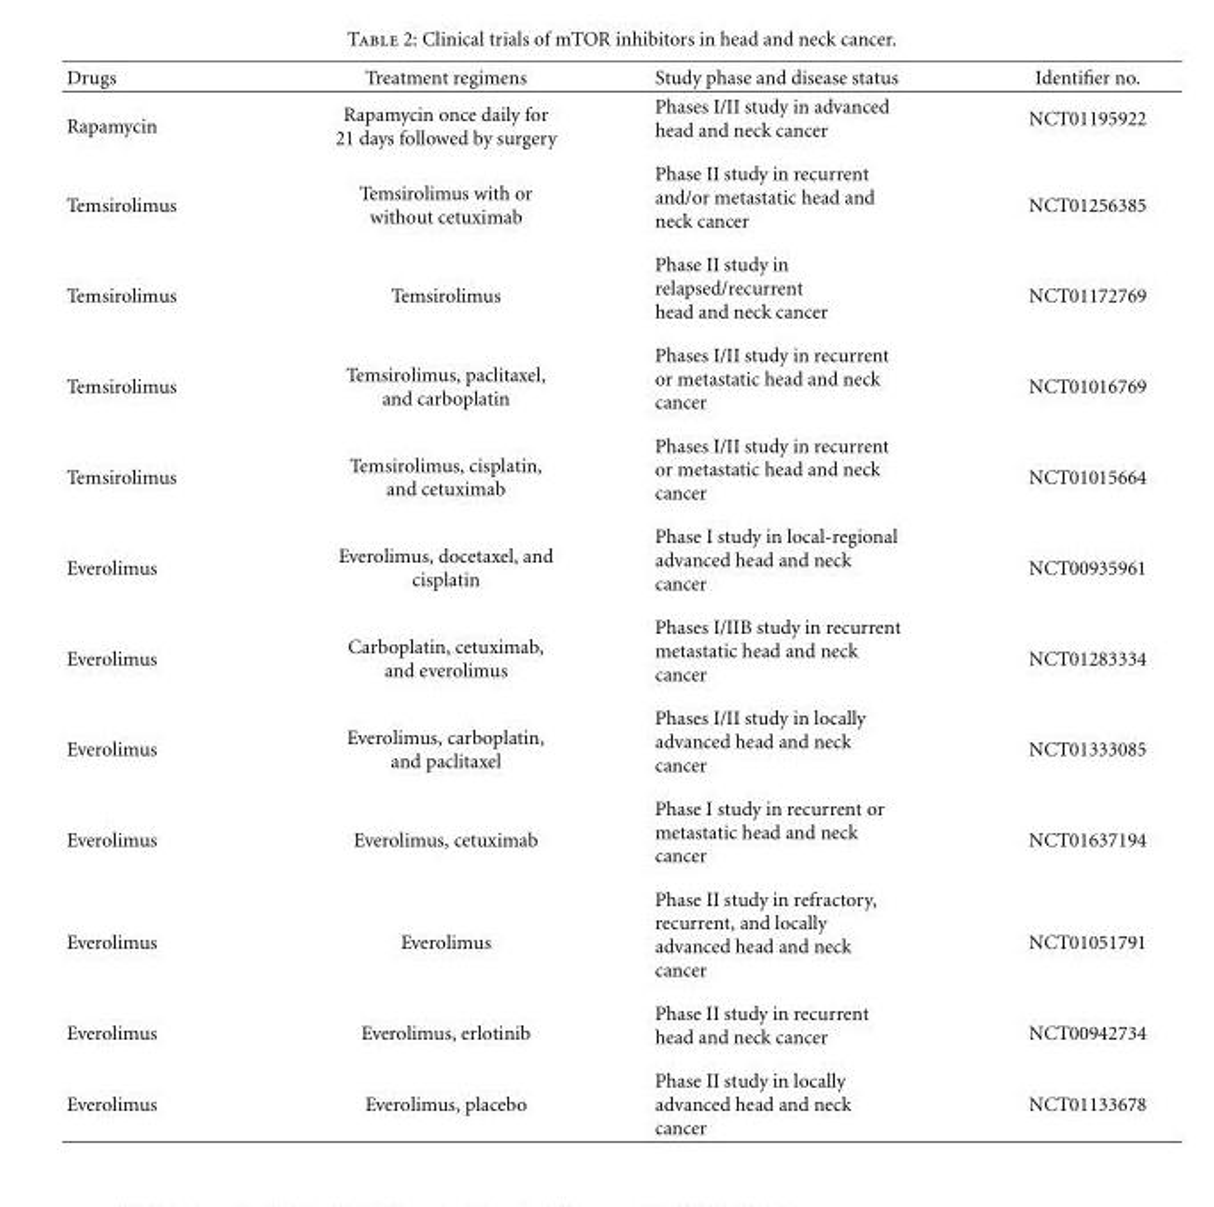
<table><thead><tr><td>Drugs</td><td>Treatment regimens</td><td>Study phase and disease status</td><td>Identifier no.</td></tr></thead><tbody><tr><td>Rapamycin</td><td>Rapamycin once daily for 21 days followed by surgery</td><td>Phases I/II study in advanced head and neck cancer</td><td>NCT01195922</td></tr><tr><td>Temsirolimus</td><td>Temsirolimus with or without cetuximab</td><td>Phase II study in recurrent and/or metastatic head and neck cancer</td><td>NCT01256385</td></tr><tr><td>Temsirolimus</td><td>Temsirolimus</td><td>Phase II study in relapsed/recurrent head and neck cancer</td><td>NCT01172769</td></tr><tr><td>Temsirolimus</td><td>Temsirolimus, paclitaxel, and carboplatin</td><td>Phases I/II study in recurrent or metastatic head and neck cancer</td><td>NCT01016769</td></tr><tr><td>Temsirolimus</td><td>Temsirolimus, cisplatin, and cetuximab</td><td>Phases I/II study in recurrent or metastatic head and neck cancer</td><td>NCT01015664</td></tr><tr><td>Everolimus</td><td>Everolimus, docetaxel, and cisplatin</td><td>Phase I study in local-regional advanced head and neck cancer</td><td>NCT00935961</td></tr><tr><td>Everolimus</td><td>Carboplatin, cetuximab, and everolimus</td><td>Phases I/IIB study in recurrent metastatic head and neck cancer</td><td>NCT01283334</td></tr><tr><td>Everolimus</td><td>Everolimus, carboplatin, and paclitaxel</td><td>Phases I/II study in locally advanced head and neck cancer</td><td>NCT01333085</td></tr><tr><td>Everolimus</td><td>Everolimus, cetuximab</td><td>Phase I study in recurrent or metastatic head and neck cancer</td><td>NCT01637194</td></tr><tr><td>Everolimus</td><td>Everolimus</td><td>Phase II study in refractory, recurrent, and locally advanced head and neck cancer</td><td>NCT01051791</td></tr><tr><td>Everolimus</td><td>Everolimus, erlotinib</td><td>Phase II study in recurrent head and neck cancer</td><td>NCT00942734</td></tr><tr><td>Everolimus</td><td>Everolimus, placebo</td><td>Phase II study in locally advanced head and neck cancer</td><td>NCT01133678</td></tr></tbody></table>